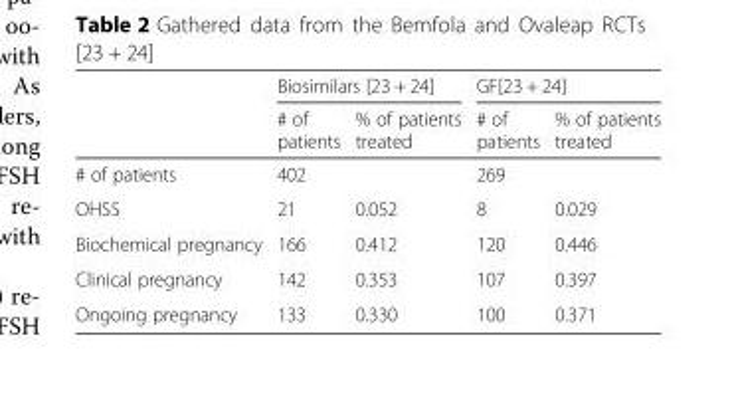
<table><thead><tr><td rowspan="2"></td><td colspan="2">Biosimilars [23 + 24]</td><td colspan="2">GF[23 + 24]</td></tr><tr><td># of patients</td><td>% of patients treated</td><td># of patients</td><td>% of patients treated</td></tr></thead><tbody><tr><td># of patients</td><td>402</td><td></td><td>269</td><td></td></tr><tr><td>OHSS</td><td>21</td><td>0.052</td><td>8</td><td>0.029</td></tr><tr><td>Biochemical pregnancy</td><td>166</td><td>0.412</td><td>120</td><td>0.446</td></tr><tr><td>Clinical pregnancy</td><td>142</td><td>0.353</td><td>107</td><td>0.397</td></tr><tr><td>Ongoing pregnancy</td><td>133</td><td>0.330</td><td>100</td><td>0.371</td></tr></tbody></table>